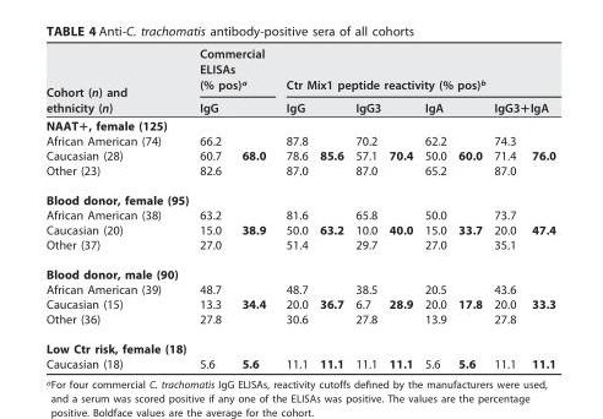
<table><thead><tr><td rowspan="3">Cohort (n) and ethnicity (n) NAAT+, female (125)</td><td rowspan="2" colspan="2">Commercial ELISAs (% pos)<sup>a</sup> IgG</td><td colspan="8">Ctr Mix1 peptide reactivity (% pos)<sup>b</sup></td></tr><tr><td colspan="2">IgG</td><td colspan="2">IgG3</td><td colspan="2">IgA</td><td colspan="2">IgG3+IgA</td></tr><tr><td></td><td></td><td></td><td></td><td></td><td></td><td></td><td></td><td></td><td></td></tr></thead><tbody><tr><td>African American (74)</td><td>66.2</td><td></td><td>87.8</td><td></td><td>70.2</td><td></td><td>62.2</td><td></td><td>74.3</td><td></td></tr><tr><td>Caucasian (28)</td><td>60.7</td><td>68.0</td><td>78.6</td><td>85.6</td><td>57.1</td><td>70.4</td><td>50.0</td><td>60.0</td><td>71.4</td><td>76.0</td></tr><tr><td>Other (23)</td><td>82.6</td><td></td><td>87.0</td><td></td><td>87.0</td><td></td><td>65.2</td><td></td><td>87.0</td><td></td></tr><tr><td colspan="11">Blood donor, female (95)</td></tr><tr><td>African American (38)</td><td>63.2</td><td></td><td>81.6</td><td></td><td>65.8</td><td></td><td>50.0</td><td></td><td>73.7</td><td></td></tr><tr><td>Caucasian (20)</td><td>15.0</td><td>38.9</td><td>50.0</td><td>63.2</td><td>10.0</td><td>40.0</td><td>15.0</td><td>33.7</td><td>20.0</td><td>47.4</td></tr><tr><td>Other (37)</td><td>27.0</td><td></td><td>51.4</td><td></td><td>29.7</td><td></td><td>27.0</td><td></td><td>35.1</td><td></td></tr><tr><td colspan="11">Blood donor, male (90)</td></tr><tr><td>African American (39)</td><td>48.7</td><td></td><td>48.7</td><td></td><td>38.5</td><td></td><td>20.5</td><td></td><td>43.6</td><td></td></tr><tr><td>Caucasian (15)</td><td>13.3</td><td>34.4</td><td>20.0</td><td>36.7</td><td>6.7</td><td>28.9</td><td>20.0</td><td>17.8</td><td>20.0</td><td>33.3</td></tr><tr><td>Other (36)</td><td>27.8</td><td></td><td>30.6</td><td></td><td>27.8</td><td></td><td>13.9</td><td></td><td>27.8</td><td></td></tr><tr><td colspan="11">Low Ctr risk, female (18)</td></tr><tr><td>Caucasian (18)</td><td>5.6</td><td>5.6</td><td>11.1</td><td>11.1</td><td>11.1</td><td>11.1</td><td>5.6</td><td>5.6</td><td>11.1</td><td>11.1</td></tr></tbody></table>